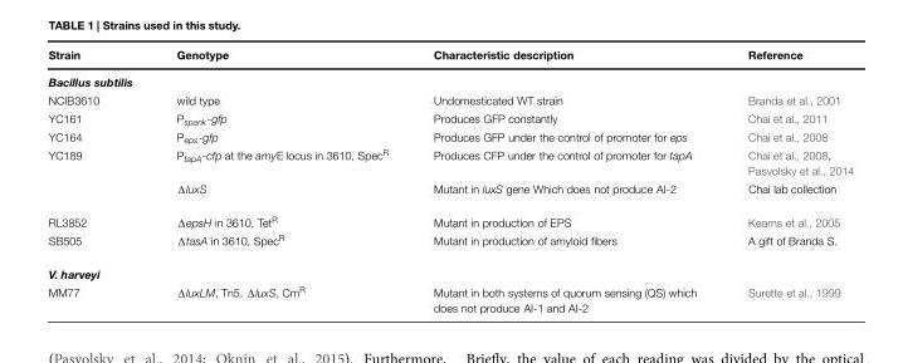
<table><thead><tr><td>Strain</td><td>Genotype</td><td>Characteristic description</td><td>Reference</td></tr></thead><tbody><tr><td colspan="4">Bacillus subtilis</td></tr><tr><td>NCIB3610</td><td>wild type</td><td>Undomesticated WT strain</td><td>Branda et al., 2001</td></tr><tr><td>YC161</td><td>P<sub>spank</sub>-gfp</td><td>Produces GFP constantly</td><td>Chai et al., 2011</td></tr><tr><td>YC164</td><td>P<sub>eps</sub>-gfp</td><td>Produces GFP under the control of promoter for eps</td><td>Chai et al., 2008</td></tr><tr><td rowspan="2">YC189</td><td>P<sub>tapA</sub>-cfp at the amyE locus in 3610, Spec<sup>R</sup></td><td>Produces CFP under the control of promoter for tapA</td><td>Chai et al., 2008, Pasvolsky et al., 2014</td></tr><tr><td>ΔluxS</td><td>Mutant in luxS gene Which does not produce AI-2</td><td>Chai lab collection</td></tr><tr><td>RL3852</td><td>ΔepsH in 3610, Tet<sup>R</sup></td><td>Mutant in production of EPS</td><td>Kearns et al., 2005</td></tr><tr><td>SB505</td><td>ΔtasA in 3610, Spec<sup>R</sup></td><td>Mutant in production of amyloid fibers</td><td>A gift of Branda S.</td></tr><tr><td colspan="4">V. harveyi</td></tr><tr><td>MM77</td><td>ΔluxLM, Tn5, ΔluxS, Cm<sup>R</sup></td><td>Mutant in both systems of quorum sensing (QS) which does not produce AI-1 and AI-2</td><td>Surette et al., 1999</td></tr></tbody></table>